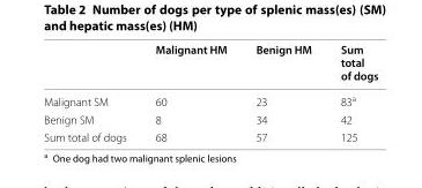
<table><thead><tr><td></td><td>Malignant HM</td><td>Benign HM</td><td>Sum total of dogs</td></tr></thead><tbody><tr><td>Malignant SM</td><td>60</td><td>23</td><td>83<sup>a</sup></td></tr><tr><td>Benign SM</td><td>8</td><td>34</td><td>42</td></tr><tr><td>Sum total of dogs</td><td>68</td><td>57</td><td>125</td></tr></tbody></table>